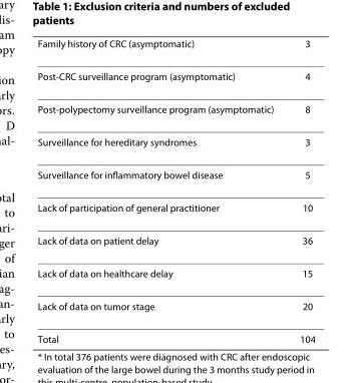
<table><thead><tr><td>Family history of CRC (asymptomatic)</td><td>3</td></tr></thead><tbody><tr><td>Post-CRC surveillance program (asymptomatic)</td><td>4</td></tr><tr><td>Post-polypectomy surveillance program (asymptomatic)</td><td>8</td></tr><tr><td>Surveillance for hereditary syndromes</td><td>3</td></tr><tr><td>Surveillance for inflammatory bowel disease</td><td>5</td></tr><tr><td>Lack of participation of general practitioner</td><td>10</td></tr><tr><td>Lack of data on patient delay</td><td>36</td></tr><tr><td>Lack of data on healthcare delay</td><td>15</td></tr><tr><td>Lack of data on tumor stage</td><td>20</td></tr><tr><td>Total</td><td>104</td></tr></tbody></table>